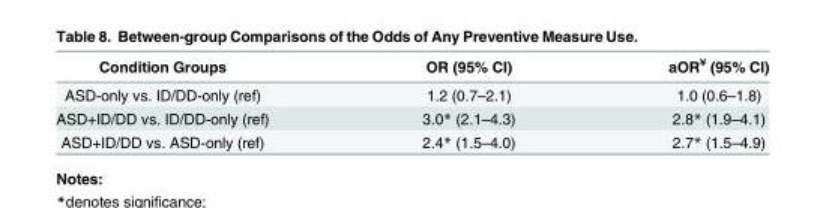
<table><thead><tr><td>Condition Groups</td><td>OR (95% CI)</td><td>aOR<sup>¥</sup> (95% CI)</td></tr></thead><tbody><tr><td>ASD-only vs. ID/DD-only (ref)</td><td>1.2 (0.7–2.1)</td><td>1.0 (0.6–1.8)</td></tr><tr><td>ASD+ID/DD vs. ID/DD-only (ref)</td><td>3.0* (2.1–4.3)</td><td>2.8* (1.9–4.1)</td></tr><tr><td>ASD+ID/DD vs. ASD-only (ref)</td><td>2.4* (1.5–4.0)</td><td>2.7* (1.5–4.9)</td></tr></tbody></table>